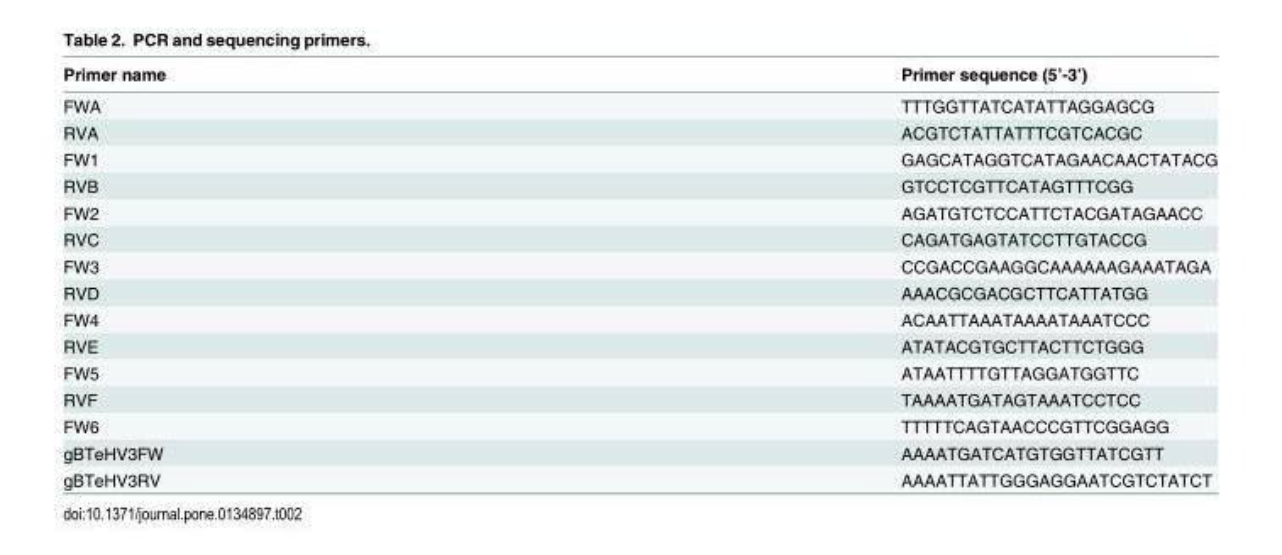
<table><thead><tr><td>Primer name</td><td>Primer sequence (5’-3’)</td></tr></thead><tbody><tr><td>FWA</td><td>TTTGGTTATCATATTAGGAGCG</td></tr><tr><td>RVA</td><td>ACGTCTATTATTTCGTCACGC</td></tr><tr><td>FW1</td><td>GAGCATAGGTCATAGAACAACTATACG</td></tr><tr><td>RVB</td><td>GTCCTCGTTCATAGTTTCGG</td></tr><tr><td>FW2</td><td>AGATGTCTCCATTCTACGATAGAACC</td></tr><tr><td>RVC</td><td>CAGATGAGTATCCTTGTACCG</td></tr><tr><td>FW3</td><td>CCGACCGAAGGCAAAAAAGAAATAGA</td></tr><tr><td>RVD</td><td>AAACGCGACGCTTCATTATGG</td></tr><tr><td>FW4</td><td>ACAATTAAATAAAATAAATCCC</td></tr><tr><td>RVE</td><td>ATATACGTGCTTACTTCTGGG</td></tr><tr><td>FW5</td><td>ATAATTTTGTTAGGATGGTTC</td></tr><tr><td>RVF</td><td>TAAAATGATAGTAAATCCTCC</td></tr><tr><td>FW6</td><td>TTTTTCAGTAACCCGTTCGGAGG</td></tr><tr><td>gBTeHV3FW</td><td>AAAATGATCATGTGGTTATCGTT</td></tr><tr><td>gBTeHV3RV</td><td>AAAATTATTGGGAGGAATCGTCTATCT</td></tr></tbody></table>